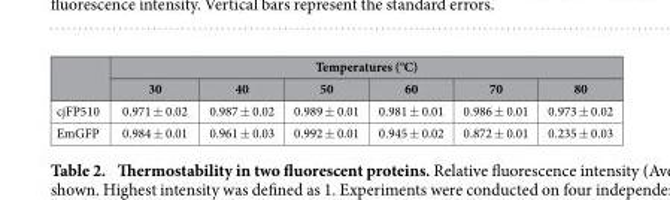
<table><thead><tr><td rowspan="2"></td><td colspan="6">Temperatures (°C)</td></tr><tr><td>30</td><td>40</td><td>50</td><td>60</td><td>70</td><td>80</td></tr></thead><tbody><tr><td>cjFP510</td><td>0.971 ± 0.02</td><td>0.987 ± 0.02</td><td>0.989 ± 0.01</td><td>0.981 ± 0.01</td><td>0.986 ± 0.01</td><td>0.973 ± 0.02</td></tr><tr><td>EmGFP</td><td>0.984 ± 0.01</td><td>0.961 ± 0.03</td><td>0.992 ± 0.01</td><td>0.945 ± 0.02</td><td>0.872 ± 0.01</td><td>0.235 ± 0.03</td></tr></tbody></table>